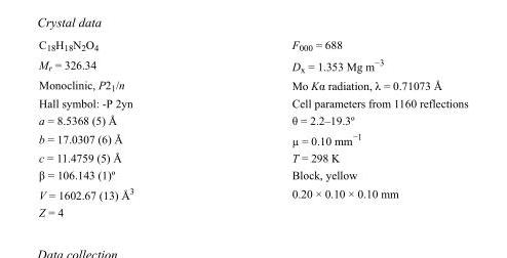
<table><tbody><tr><td>C<sub>18</sub>H<sub>18</sub>N<sub>2</sub>O<sub>4</sub></td><td>F000 = 688</td></tr><tr><td>M<sub>r</sub> = 326.34</td><td>D<sub>x</sub> = 1.353 Mg m<sup>−3</sup></td></tr><tr><td>Monoclinic, P2<sub>1</sub>/n</td><td>Mo Kα radiation, λ = 0.71073 Å</td></tr><tr><td>Hall symbol: -P 2yn</td><td>Cell parameters from 1160 reflections</td></tr><tr><td>a = 8.5368 (5) Å</td><td>θ = 2.2–19.3º</td></tr><tr><td>b = 17.0307 (6) Å</td><td>µ = 0.10 mm<sup>−1</sup></td></tr><tr><td>c = 11.4759 (5) Å</td><td>T = 298 K</td></tr><tr><td>β = 106.143 (1)º</td><td>Block, yellow</td></tr><tr><td>V = 1602.67 (13) Å<sup>3</sup></td><td>0.20 × 0.10 × 0.10 mm</td></tr><tr><td>Z = 4</td><td></td></tr></tbody></table>